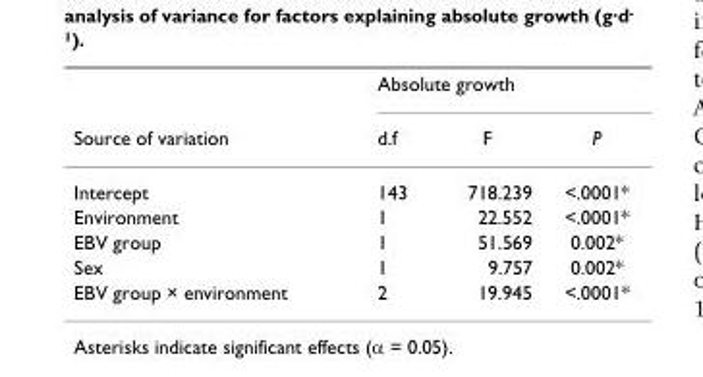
<table><thead><tr><td rowspan="2">Source of variation</td><td colspan="3">Absolute growth</td></tr><tr><td>d.f</td><td>F</td><td>P</td></tr></thead><tbody><tr><td>Intercept</td><td>143</td><td>718.239</td><td>&lt;.0001*</td></tr><tr><td>Environment</td><td>1</td><td>22.552</td><td>&lt;.0001*</td></tr><tr><td>EBV group</td><td>1</td><td>51.569</td><td>0.002*</td></tr><tr><td>Sex</td><td>1</td><td>9.757</td><td>0.002*</td></tr><tr><td>EBV group × environment</td><td>2</td><td>19.945</td><td>&lt;.0001*</td></tr></tbody></table>